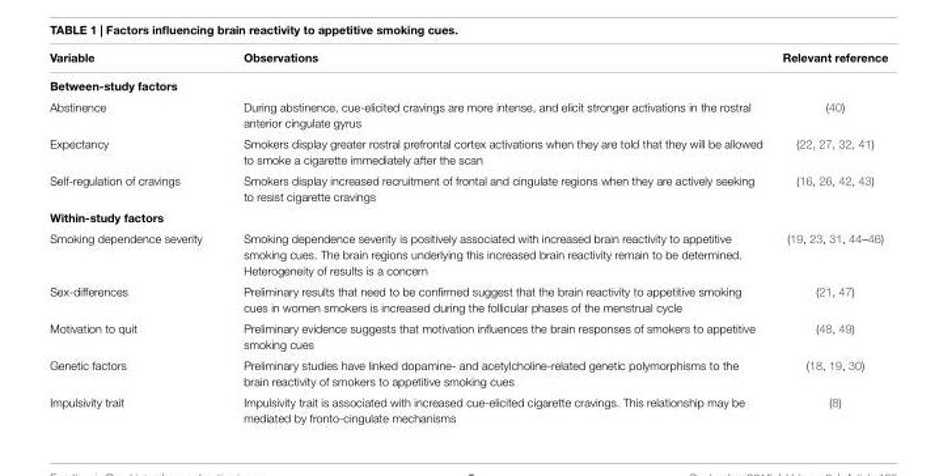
<table><thead><tr><td>variable</td><td>observations</td><td>Relevant reference</td></tr></thead><tbody><tr><td colspan="3">Between-study factors</td></tr><tr><td>Abstinence</td><td>During abstinence, cue-elicited cravings are more intense, and elicit stronger activations in the rostral anterior cingulate gyrus</td><td>(40)</td></tr><tr><td>Expectancy</td><td>Smokers display greater rostral prefrontal cortex activations when they are told that they will be allowed to smoke a cigarette immediately after the scan</td><td>(22, 27, 32, 41)</td></tr><tr><td>Self-regulation of cravings</td><td>Smokers display increased recruitment of frontal and cingulate regions when they are actively seeking to resist cigarette cravings</td><td>(16, 26, 42, 43)</td></tr><tr><td colspan="3">within-study factors</td></tr><tr><td>Smoking dependence severity</td><td>Smoking dependence severity is positively associated with increased brain reactivity to appetitive smoking cues. The brain regions underlying this increased brain reactivity remain to be determined. Heterogeneity of results is a concern</td><td>(19, 23, 31, 44–46)</td></tr><tr><td>Sex-differences</td><td>Preliminary results that need to be confirmed suggest that the brain reactivity to appetitive smoking cues in women smokers is increased during the follicular phases of the menstrual cycle</td><td>(21, 47)</td></tr><tr><td>Motivation to quit</td><td>Preliminary evidence suggests that motivation influences the brain responses of smokers to appetitive smoking cues</td><td>(48, 49)</td></tr><tr><td>Genetic factors</td><td>Preliminary studies have linked dopamine- and acetylcholine-related genetic polymorphisms to the brain reactivity of smokers to appetitive smoking cues</td><td>(18, 19, 30)</td></tr><tr><td>Impulsivity trait</td><td>Impulsivity trait is associated with increased cue-elicited cigarette cravings. This relationship may be mediated by fronto-cingulate mechanisms</td><td>(8)</td></tr></tbody></table>